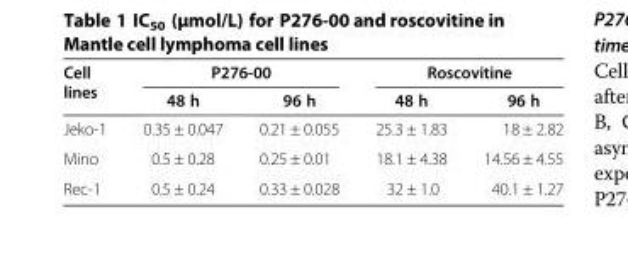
<table><thead><tr><td rowspan="2">Cell lines</td><td colspan="2">P276-00</td><td colspan="2">Roscovitine</td></tr><tr><td>48 h</td><td>96 h</td><td>48 h</td><td>96 h</td></tr></thead><tbody><tr><td>Jeko-1</td><td>0.35 ± 0.047</td><td>0.21 ± 0.055</td><td>25.3 ± 1.83</td><td>18 ± 2.82</td></tr><tr><td>Mino</td><td>0.5 ± 0.28</td><td>0.25 ± 0.01</td><td>18.1 ± 4.38</td><td>14.56 ± 4.55</td></tr><tr><td>Rec-1</td><td>0.5 ± 0.24</td><td>0.33 ± 0.028</td><td>32 ± 1.0</td><td>40.1 ± 1.27</td></tr></tbody></table>